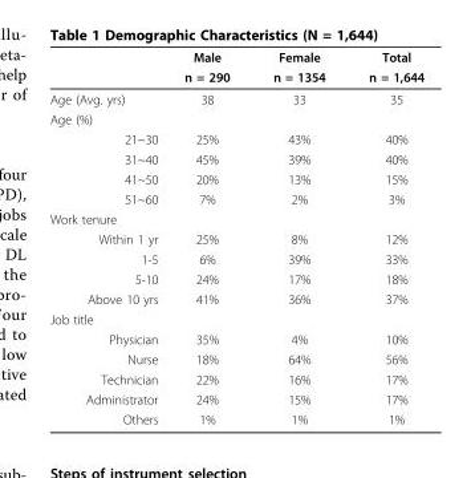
<table><thead><tr><td rowspan="2"></td><td rowspan="2">Male n = 290</td><td rowspan="2">Female n = 1354</td><td rowspan="2">Total n = 1,644</td></tr><tr></tr></thead><tbody><tr><td>Age (Avg. yrs)</td><td>38</td><td>33</td><td>35</td></tr><tr><td colspan="4">Age (%)</td></tr><tr><td>21~30</td><td>25%</td><td>43%</td><td>40%</td></tr><tr><td>31~40</td><td>45%</td><td>39%</td><td>40%</td></tr><tr><td>41~50</td><td>20%</td><td>13%</td><td>15%</td></tr><tr><td>51~60</td><td>7%</td><td>2%</td><td>3%</td></tr><tr><td colspan="4">Work tenure</td></tr><tr><td>Within 1 yr</td><td>25%</td><td>8%</td><td>12%</td></tr><tr><td>1-5</td><td>6%</td><td>39%</td><td>33%</td></tr><tr><td>5-10</td><td>24%</td><td>17%</td><td>18%</td></tr><tr><td>Above 10 yrs</td><td>41%</td><td>36%</td><td>37%</td></tr><tr><td colspan="4">Job title</td></tr><tr><td>Physician</td><td>35%</td><td>4%</td><td>10%</td></tr><tr><td>Nurse</td><td>18%</td><td>64%</td><td>56%</td></tr><tr><td>Technician</td><td>22%</td><td>16%</td><td>17%</td></tr><tr><td>Administrator</td><td>24%</td><td>15%</td><td>17%</td></tr><tr><td>Others</td><td>1%</td><td>1%</td><td>1%</td></tr></tbody></table>